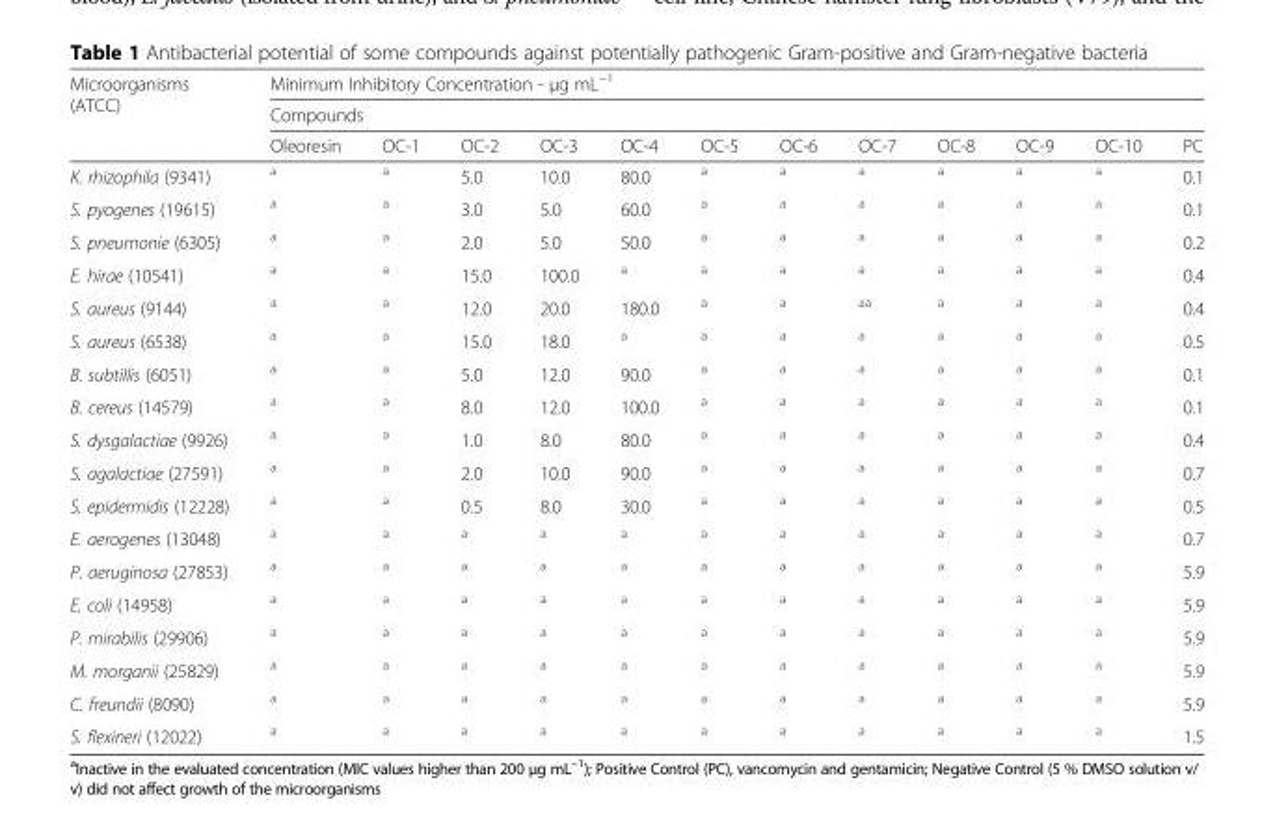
<table><thead><tr><td rowspan="3">Microorganisms (ATCC)</td><td rowspan="2" colspan="12">Minimum Inhibitory Concentration - µg mL<sup>−1</sup> Compounds</td></tr><tr></tr><tr><td>Oleoresin</td><td>OC-1</td><td>OC-2</td><td>OC-3</td><td>OC-4</td><td>OC-5</td><td>OC-6</td><td>OC-7</td><td>OC-8</td><td>OC-9</td><td>OC-10</td><td>PC</td></tr></thead><tbody><tr><td>K. rhizophila (9341)</td><td><sup>a</sup></td><td><sup>a</sup></td><td>5.0</td><td>10.0</td><td>80.0</td><td><sup>a</sup></td><td><sup>a</sup></td><td><sup>a</sup></td><td><sup>a</sup></td><td><sup>a</sup></td><td><sup>a</sup></td><td>0.1</td></tr><tr><td>S. pyogenes (19615)</td><td><sup>a</sup></td><td><sup>a</sup></td><td>3.0</td><td>5.0</td><td>60.0</td><td><sup>a</sup></td><td><sup>a</sup></td><td><sup>a</sup></td><td><sup>a</sup></td><td><sup>a</sup></td><td><sup>a</sup></td><td>0.1</td></tr><tr><td>S. pneumonie (6305)</td><td><sup>a</sup></td><td><sup>a</sup></td><td>2.0</td><td>5.0</td><td>50.0</td><td><sup>a</sup></td><td><sup>a</sup></td><td><sup>a</sup></td><td><sup>a</sup></td><td><sup>a</sup></td><td><sup>a</sup></td><td>0.2</td></tr><tr><td>E. hirae (10541)</td><td><sup>a</sup></td><td><sup>a</sup></td><td>15.0</td><td>100.0</td><td><sup>a</sup></td><td><sup>a</sup></td><td><sup>a</sup></td><td><sup>a</sup></td><td><sup>a</sup></td><td><sup>a</sup></td><td><sup>a</sup></td><td>0.4</td></tr><tr><td>S. aureus (9144)</td><td><sup>a</sup></td><td><sup>a</sup></td><td>12.0</td><td>20.0</td><td>180.0</td><td><sup>a</sup></td><td><sup>a</sup></td><td><sup>aa</sup></td><td><sup>a</sup></td><td><sup>a</sup></td><td><sup>a</sup></td><td>0.4</td></tr><tr><td>S. aureus (6538)</td><td><sup>a</sup></td><td><sup>a</sup></td><td>15.0</td><td>18.0</td><td><sup>a</sup></td><td><sup>a</sup></td><td><sup>a</sup></td><td><sup>a</sup></td><td><sup>a</sup></td><td><sup>a</sup></td><td><sup>a</sup></td><td>0.5</td></tr><tr><td>B. subtillis (6051)</td><td><sup>a</sup></td><td><sup>a</sup></td><td>5.0</td><td>12.0</td><td>90.0</td><td><sup>a</sup></td><td><sup>a</sup></td><td><sup>a</sup></td><td><sup>a</sup></td><td><sup>a</sup></td><td><sup>a</sup></td><td>0.1</td></tr><tr><td>B. cereus (14579)</td><td><sup>a</sup></td><td><sup>a</sup></td><td>8.0</td><td>12.0</td><td>100.0</td><td><sup>a</sup></td><td><sup>a</sup></td><td><sup>a</sup></td><td><sup>a</sup></td><td><sup>a</sup></td><td><sup>a</sup></td><td>0.1</td></tr><tr><td>S. dysgalactiae (9926)</td><td><sup>a</sup></td><td><sup>a</sup></td><td>1.0</td><td>8.0</td><td>80.0</td><td><sup>a</sup></td><td><sup>a</sup></td><td><sup>a</sup></td><td><sup>a</sup></td><td><sup>a</sup></td><td><sup>a</sup></td><td>0.4</td></tr><tr><td>S. agalactiae (27591)</td><td><sup>a</sup></td><td><sup>a</sup></td><td>2.0</td><td>10.0</td><td>90.0</td><td><sup>a</sup></td><td><sup>a</sup></td><td><sup>a</sup></td><td><sup>a</sup></td><td><sup>a</sup></td><td><sup>a</sup></td><td>0.7</td></tr><tr><td>S. epidermidis (12228)</td><td><sup>a</sup></td><td><sup>a</sup></td><td>0.5</td><td>8.0</td><td>30.0</td><td><sup>a</sup></td><td><sup>a</sup></td><td><sup>a</sup></td><td><sup>a</sup></td><td><sup>a</sup></td><td><sup>a</sup></td><td>0.5</td></tr><tr><td>E. aerogenes (13048)</td><td><sup>a</sup></td><td><sup>a</sup></td><td><sup>a</sup></td><td><sup>a</sup></td><td><sup>a</sup></td><td><sup>a</sup></td><td><sup>a</sup></td><td><sup>a</sup></td><td><sup>a</sup></td><td><sup>a</sup></td><td><sup>a</sup></td><td>0.7</td></tr><tr><td>P. aeruginosa (27853)</td><td><sup>a</sup></td><td><sup>a</sup></td><td><sup>a</sup></td><td><sup>a</sup></td><td><sup>a</sup></td><td><sup>a</sup></td><td><sup>a</sup></td><td><sup>a</sup></td><td><sup>a</sup></td><td><sup>a</sup></td><td><sup>a</sup></td><td>5.9</td></tr><tr><td>E. coli (14958)</td><td><sup>a</sup></td><td><sup>a</sup></td><td><sup>a</sup></td><td><sup>a</sup></td><td><sup>a</sup></td><td><sup>a</sup></td><td><sup>a</sup></td><td><sup>a</sup></td><td><sup>a</sup></td><td><sup>a</sup></td><td><sup>a</sup></td><td>5.9</td></tr><tr><td>P. mirabilis (29906)</td><td><sup>a</sup></td><td><sup>a</sup></td><td><sup>a</sup></td><td><sup>a</sup></td><td><sup>a</sup></td><td><sup>a</sup></td><td><sup>a</sup></td><td><sup>a</sup></td><td><sup>a</sup></td><td><sup>a</sup></td><td><sup>a</sup></td><td>5.9</td></tr><tr><td>M. morganii (25829)</td><td><sup>a</sup></td><td><sup>a</sup></td><td><sup>a</sup></td><td><sup>a</sup></td><td><sup>a</sup></td><td><sup>a</sup></td><td><sup>a</sup></td><td><sup>a</sup></td><td><sup>a</sup></td><td><sup>a</sup></td><td><sup>a</sup></td><td>5.9</td></tr><tr><td>C. freundii (8090)</td><td><sup>a</sup></td><td><sup>a</sup></td><td><sup>a</sup></td><td><sup>a</sup></td><td><sup>a</sup></td><td><sup>a</sup></td><td><sup>a</sup></td><td><sup>a</sup></td><td><sup>a</sup></td><td><sup>a</sup></td><td><sup>a</sup></td><td>5.9</td></tr><tr><td>S. flexineri (12022)</td><td><sup>a</sup></td><td><sup>a</sup></td><td><sup>a</sup></td><td><sup>a</sup></td><td><sup>a</sup></td><td><sup>a</sup></td><td><sup>a</sup></td><td><sup>a</sup></td><td><sup>a</sup></td><td><sup>a</sup></td><td><sup>a</sup></td><td>1.5</td></tr></tbody></table>